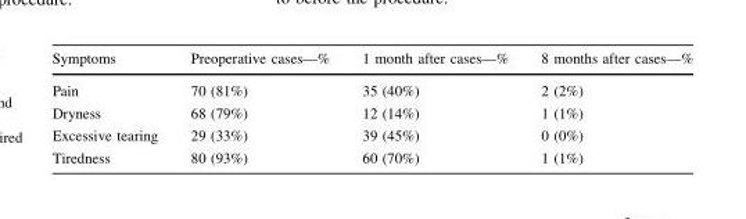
<table><thead><tr><td>Symptoms</td><td>Preoperative cases—%</td><td>1 month after cases—%</td><td>8 months after cases—%</td></tr></thead><tbody><tr><td>Pain</td><td>70 (81%)</td><td>35 (40%)</td><td>2 (2%)</td></tr><tr><td>Dryness</td><td>68 (79%)</td><td>12 (14%)</td><td>1 (1%)</td></tr><tr><td>Excessive tearing</td><td>29 (33%)</td><td>39 (45%)</td><td>0 (0%)</td></tr><tr><td>Tiredness</td><td>80 (93%)</td><td>60 (70%)</td><td>1 (1%)</td></tr></tbody></table>